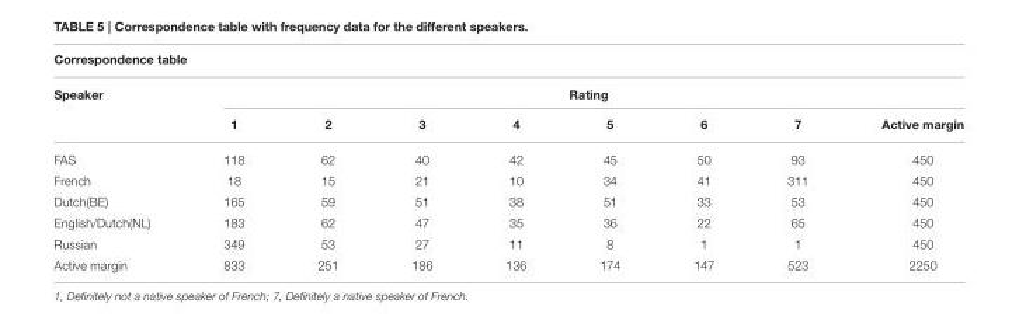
<table><thead><tr><td colspan="9">Correspondence table</td></tr><tr><td rowspan="2">Speaker</td><td colspan="8">Rating</td></tr><tr><td>1</td><td>2</td><td>3</td><td>4</td><td>5</td><td>6</td><td>7</td><td>Active margin</td></tr></thead><tbody><tr><td>FAS</td><td>118</td><td>62</td><td>40</td><td>42</td><td>45</td><td>50</td><td>93</td><td>450</td></tr><tr><td>French</td><td>18</td><td>15</td><td>21</td><td>10</td><td>34</td><td>41</td><td>311</td><td>450</td></tr><tr><td>Dutch(BE)</td><td>165</td><td>59</td><td>51</td><td>38</td><td>51</td><td>33</td><td>53</td><td>450</td></tr><tr><td>English/Dutch(NL)</td><td>183</td><td>62</td><td>47</td><td>35</td><td>36</td><td>22</td><td>65</td><td>450</td></tr><tr><td>Russian</td><td>349</td><td>53</td><td>27</td><td>11</td><td>8</td><td>1</td><td>1</td><td>450</td></tr><tr><td>Active margin</td><td>833</td><td>251</td><td>186</td><td>136</td><td>174</td><td>147</td><td>523</td><td>2250</td></tr></tbody></table>